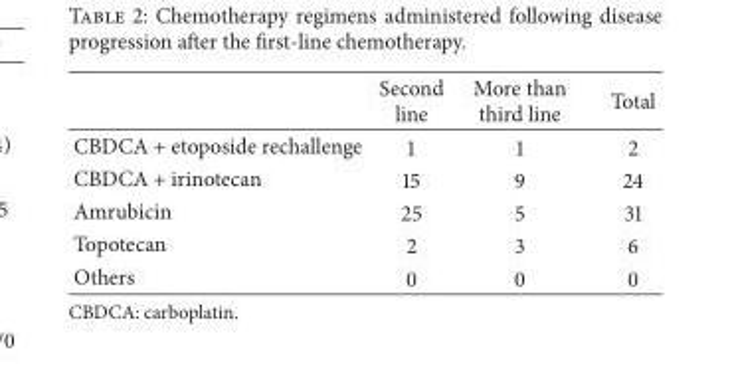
<table><thead><tr><td></td><td>Second line</td><td>More than third line</td><td>Total</td></tr></thead><tbody><tr><td>CBDCA + etoposide rechallenge</td><td>1</td><td>1</td><td>2</td></tr><tr><td>CBDCA + irinotecan</td><td>15</td><td>9</td><td>24</td></tr><tr><td>Amrubicin</td><td>25</td><td>5</td><td>31</td></tr><tr><td>Topotecan</td><td>2</td><td>3</td><td>6</td></tr><tr><td>Others</td><td>0</td><td>0</td><td>0</td></tr></tbody></table>